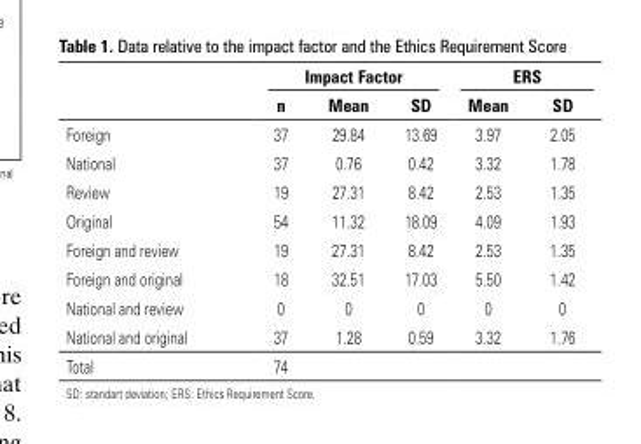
<table><thead><tr><td rowspan="2"></td><td colspan="3">Impact Factor</td><td colspan="2">ERS</td></tr><tr><td>n</td><td>Mean</td><td>SD</td><td>Mean</td><td>SD</td></tr></thead><tbody><tr><td>Foreign</td><td>37</td><td>29.84</td><td>13.69</td><td>3.97</td><td>2.05</td></tr><tr><td>National</td><td>37</td><td>0.76</td><td>0.42</td><td>3.32</td><td>1.78</td></tr><tr><td>Review</td><td>19</td><td>27.31</td><td>8.42</td><td>2.53</td><td>1.35</td></tr><tr><td>Original</td><td>54</td><td>11.32</td><td>18.09</td><td>4.09</td><td>1.93</td></tr><tr><td>Foreign and review</td><td>19</td><td>27.31</td><td>8.42</td><td>2.53</td><td>1.35</td></tr><tr><td>Foreign and original</td><td>18</td><td>32.51</td><td>17.03</td><td>5.50</td><td>1.42</td></tr><tr><td>National and review</td><td>0</td><td>0</td><td>0</td><td>0</td><td>0</td></tr><tr><td>National and original</td><td>37</td><td>1.28</td><td>0.59</td><td>3.32</td><td>1.76</td></tr><tr><td>Total</td><td>74</td><td></td><td></td><td></td><td></td></tr></tbody></table>